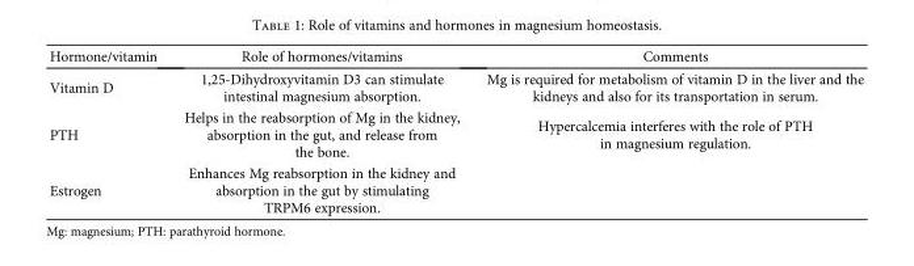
<table><thead><tr><td>Hormone/vitamin</td><td>Role of hormones/vitamins</td><td>Comments</td></tr></thead><tbody><tr><td>Vitamin D</td><td>1,25-Dihydroxyvitamin D3 can stimulate intestinal magnesium absorption.</td><td>Mg is required for metabolism of vitamin D in the liver and the kidneys and also for its transportation in serum.</td></tr><tr><td>PTH</td><td>Helps in the reabsorption of Mg in the kidney, absorption in the gut, and release from the bone.</td><td>Hypercalcemia interferes with the role of PTH in magnesium regulation.</td></tr><tr><td>Estrogen</td><td>Enhances Mg reabsorption in the kidney and absorption in the gut by stimulating TRPM6 expression.</td><td></td></tr></tbody></table>